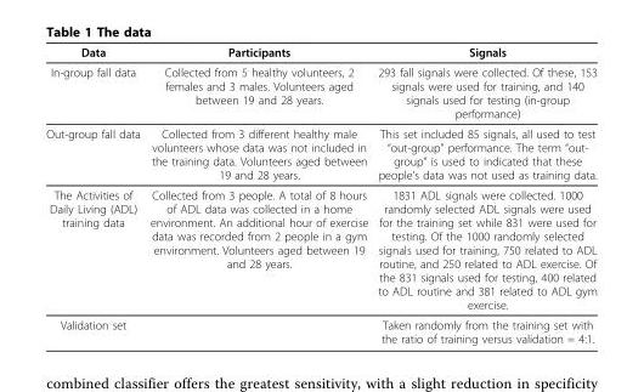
<table><thead><tr><td>Data</td><td>Participants</td><td>Signals</td></tr></thead><tbody><tr><td>In-group fall data</td><td>Collected from 5 healthy volunteers, 2 females and 3 males. Volunteers aged between 19 and 28 years.</td><td>293 fall signals were collected. Of these, 153 signals were used for training, and 140 signals used for testing (in-group performance)</td></tr><tr><td>Out-group fall data</td><td>Collected from 3 different healthy male volunteers whose data was not included in the training data. Volunteers aged between 19 and 28 years.</td><td>This set included 85 signals, all used to test “out-group” performance. The term “out- group” is used to indicated that these people’s data was not used as training data.</td></tr><tr><td>The Activities of Daily Living (ADL) training data</td><td>Collected from 3 people. A total of 8 hours of ADL data was collected in a home environment. An additional hour of exercise data was recorded from 2 people in a gym environment. Volunteers aged between 19 and 28 years.</td><td>1831 ADL signals were collected. 1000 randomly selected ADL signals were used for the training set while 831 were used for testing. Of the 1000 randomly selected signals used for training, 750 related to ADL routine, and 250 related to ADL exercise. Of the 831 signals used for testing, 400 related to ADL routine and 381 related to ADL gym exercise.</td></tr><tr><td>Validation set</td><td></td><td>Taken randomly from the training set with the ratio of training versus validation = 4:1.</td></tr></tbody></table>